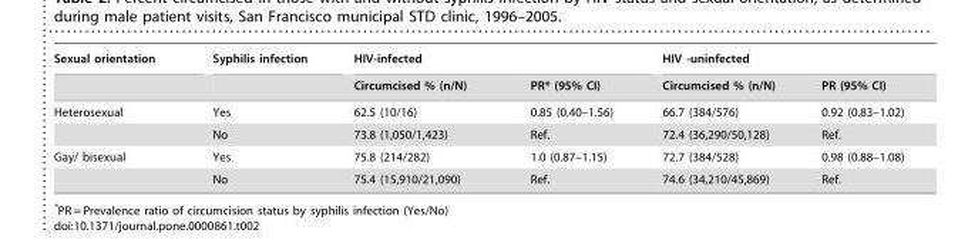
<table><thead><tr><td rowspan="2">Sexual orientation</td><td rowspan="2">Syphilis infection</td><td colspan="2">HIV-infected</td><td colspan="2">HIV -uninfected</td></tr><tr><td>Circumcised % (n/N)</td><td>PR* (95% CI)</td><td>Circumcised % (n/N)</td><td>PR (95% CI)</td></tr></thead><tbody><tr><td rowspan="2">Heterosexual</td><td>Yes</td><td>62.5 (10/16)</td><td>0.85 (0.40–1.56)</td><td>66.7 (384/576)</td><td>0.92 (0.83–1.02)</td></tr><tr><td>No</td><td>73.8 (1,050/1,423)</td><td>Ref.</td><td>72.4 (36,290/50,128)</td><td>Ref.</td></tr><tr><td rowspan="2">Gay/ bisexual</td><td>Yes</td><td>75.8 (214/282)</td><td>1.0 (0.87–1.15)</td><td>72.7 (384/528)</td><td>0.98 (0.88–1.08)</td></tr><tr><td>No</td><td>75.4 (15,910/21,090)</td><td>Ref.</td><td>74.6 (34,210/45,869)</td><td>Ref.</td></tr></tbody></table>